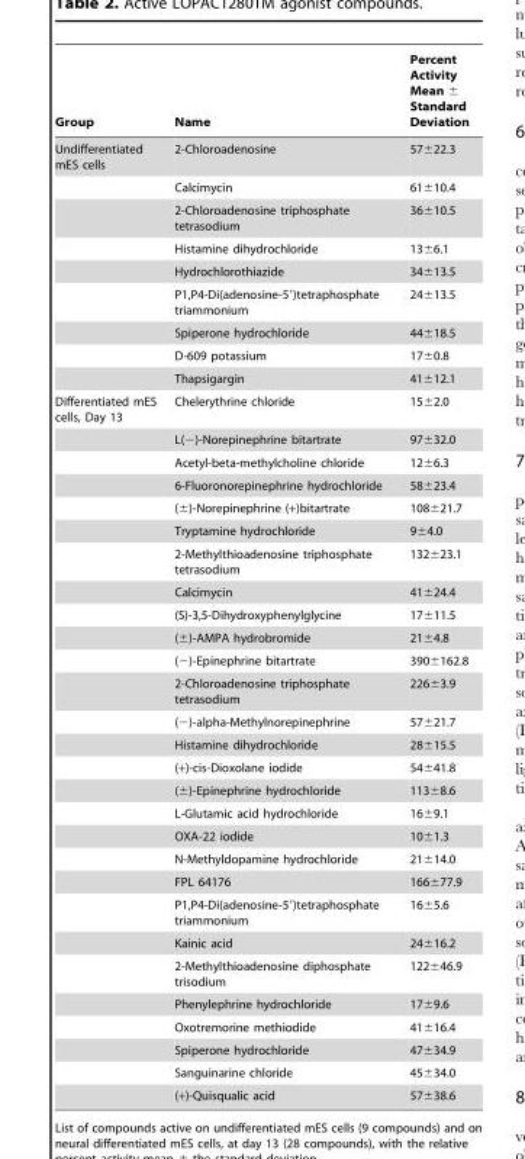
<table><thead><tr><td>Group</td><td>Name</td><td>Percent Activity Mean ± Standard Deviation</td></tr></thead><tbody><tr><td rowspan="9">Undifferentiated mES cells</td><td>2-Chloroadenosine</td><td>57±22.3</td></tr><tr><td>Calcimycin</td><td>61±10.4</td></tr><tr><td>2-Chloroadenosine triphosphate tetrasodium</td><td>36±10.5</td></tr><tr><td>Histamine dihydrochloride</td><td>13±6.1</td></tr><tr><td>Hydrochlorothiazide</td><td>34±13.5</td></tr><tr><td>P1,P4-Di(adenosine-5′)tetraphosphate triammonium</td><td>24±13.5</td></tr><tr><td>Spiperone hydrochloride</td><td>44±18.5</td></tr><tr><td>D-609 potassium</td><td>17±0.8</td></tr><tr><td>Thapsigargin</td><td>41±12.1</td></tr><tr><td rowspan="28">Differentiated mES cells, Day 13</td><td>Chelerythrine chloride</td><td>15±2.0</td></tr><tr><td>L(−)-Norepinephrine bitartrate</td><td>97±32.0</td></tr><tr><td>Acetyl-beta-methylcholine chloride</td><td>12±6.3</td></tr><tr><td>6-Fluoronorepinephrine hydrochloride</td><td>58±23.4</td></tr><tr><td>(±)-Norepinephrine (+)bitartrate</td><td>108±21.7</td></tr><tr><td>Tryptamine hydrochloride</td><td>9±4.0</td></tr><tr><td>2-Methylthioadenosine triphosphate tetrasodium</td><td>132±23.1</td></tr><tr><td>Calcimycin</td><td>41±24.4</td></tr><tr><td>(S)-3,5-Dihydroxyphenylglycine</td><td>17±11.5</td></tr><tr><td>(±)-AMPA hydrobromide</td><td>21±4.8</td></tr><tr><td>(−)-Epinephrine bitartrate</td><td>390±162.8</td></tr><tr><td>2-Chloroadenosine triphosphate tetrasodium</td><td>226±3.9</td></tr><tr><td>(−)-alpha-Methylnorepinephrine</td><td>57±21.7</td></tr><tr><td>Histamine dihydrochloride</td><td>28±15.5</td></tr><tr><td>(+)-cis-Dioxolane iodide</td><td>54±41.8</td></tr><tr><td>(±)-Epinephrine hydrochloride</td><td>113±8.6</td></tr><tr><td>L-Glutamic acid hydrochloride</td><td>16±9.1</td></tr><tr><td>OXA-22 iodide</td><td>10±1.3</td></tr><tr><td>N-Methyldopamine hydrochloride</td><td>21±14.0</td></tr><tr><td>FPL 64176</td><td>166±77.9</td></tr><tr><td>P1,P4-Di(adenosine-5′)tetraphosphate triammonium</td><td>16±5.6</td></tr><tr><td>Kainic acid</td><td>24±16.2</td></tr><tr><td>2-Methylthioadenosine diphosphate trisodium</td><td>122±46.9</td></tr><tr><td>Phenylephrine hydrochloride</td><td>17±9.6</td></tr><tr><td>Oxotremorine methiodide</td><td>41±16.4</td></tr><tr><td>Spiperone hydrochloride</td><td>47±34.9</td></tr><tr><td>Sanguinarine chloride</td><td>45±34.0</td></tr><tr><td>(+)-Quisqualic acid</td><td>57±38.6</td></tr></tbody></table>